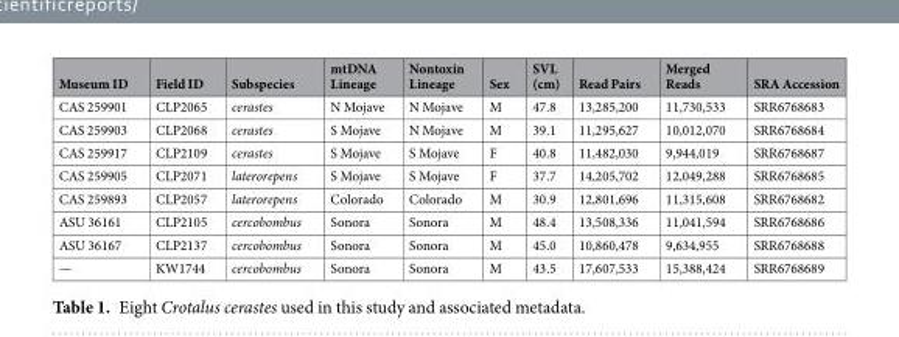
<table><thead><tr><td>Museum ID</td><td>Field ID</td><td>Subspecies</td><td>mtDNA Lineage</td><td>Nontoxin Lineage</td><td>Sex</td><td>SVL (cm)</td><td>Read Pairs</td><td>Merged Reads</td><td>SRA Accession</td></tr></thead><tbody><tr><td>CAS 259901</td><td>CLP2065</td><td>cerastes</td><td>N Mojave</td><td>N Mojave</td><td>M</td><td>47.8</td><td>13,285,200</td><td>11,730,533</td><td>SRR6768683</td></tr><tr><td>CAS 259903</td><td>CLP2068</td><td>cerastes</td><td>S Mojave</td><td>N Mojave</td><td>M</td><td>39.1</td><td>11,295,627</td><td>10,012,070</td><td>SRR6768684</td></tr><tr><td>CAS 259917</td><td>CLP2109</td><td>cerastes</td><td>S Mojave</td><td>S Mojave</td><td>F</td><td>40.8</td><td>11,482,030</td><td>9,944,019</td><td>SRR6768687</td></tr><tr><td>CAS 259905</td><td>CLP2071</td><td>laterorepens</td><td>S Mojave</td><td>S Mojave</td><td>F</td><td>37.7</td><td>14,205,702</td><td>12,049,288</td><td>SRR6768685</td></tr><tr><td>CAS 259893</td><td>CLP2057</td><td>laterorepens</td><td>Colorado</td><td>Colorado</td><td>M</td><td>30.9</td><td>12,801,696</td><td>11,315,608</td><td>SRR6768682</td></tr><tr><td>ASU 36161</td><td>CLP2105</td><td>cercobombus</td><td>Sonora</td><td>Sonora</td><td>M</td><td>48.4</td><td>13,508,336</td><td>11,041,594</td><td>SRR6768686</td></tr><tr><td>ASU 36167</td><td>CLP2137</td><td>cercobombus</td><td>Sonora</td><td>Sonora</td><td>M</td><td>45.0</td><td>10,860,478</td><td>9,634,955</td><td>SRR6768688</td></tr><tr><td>—</td><td>KW1744</td><td>cercobombus</td><td>Sonora</td><td>Sonora</td><td>M</td><td>43.5</td><td>17,607,533</td><td>15,388,424</td><td>SRR6768689</td></tr></tbody></table>